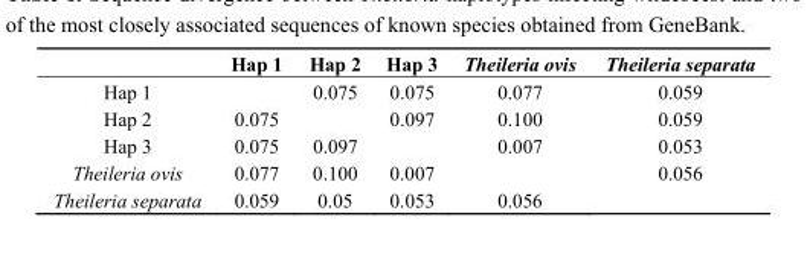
<table><thead><tr><td></td><td>Hap 1</td><td>Hap 2</td><td>Hap 3</td><td>Theileria ovis</td><td>Theileria separata</td></tr></thead><tbody><tr><td>Hap 1</td><td></td><td>0.075</td><td>0.075</td><td>0.077</td><td>0.059</td></tr><tr><td>Hap 2</td><td>0.075</td><td></td><td>0.097</td><td>0.100</td><td>0.059</td></tr><tr><td>Hap 3</td><td>0.075</td><td>0.097</td><td></td><td>0.007</td><td>0.053</td></tr><tr><td>Theileria ovis</td><td>0.077</td><td>0.100</td><td>0.007</td><td></td><td>0.056</td></tr><tr><td>Theileria separata</td><td>0.059</td><td>0.05</td><td>0.053</td><td>0.056</td><td></td></tr></tbody></table>